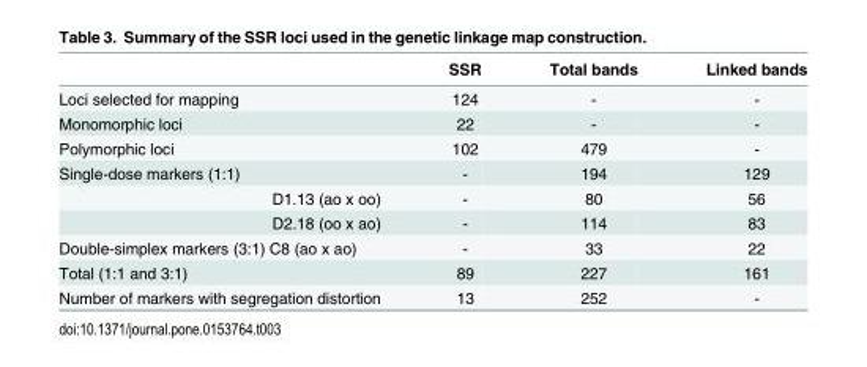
<table><thead><tr><td></td><td>SSR</td><td>Total bands</td><td>Linked bands</td></tr></thead><tbody><tr><td>Loci selected for mapping</td><td>124</td><td>-</td><td>-</td></tr><tr><td>Monomorphic loci</td><td>22</td><td>-</td><td>-</td></tr><tr><td>Polymorphic loci</td><td>102</td><td>479</td><td>-</td></tr><tr><td>Single-dose markers (1:1)</td><td>-</td><td>194</td><td>129</td></tr><tr><td>D1.13 (ao x oo)</td><td>-</td><td>80</td><td>56</td></tr><tr><td>D2.18 (oo x ao)</td><td>-</td><td>114</td><td>83</td></tr><tr><td>Double-simplex markers (3:1) C8 (ao x ao)</td><td>-</td><td>33</td><td>22</td></tr><tr><td>Total (1:1 and 3:1)</td><td>89</td><td>227</td><td>161</td></tr><tr><td>Number of markers with segregation distortion</td><td>13</td><td>252</td><td>-</td></tr></tbody></table>